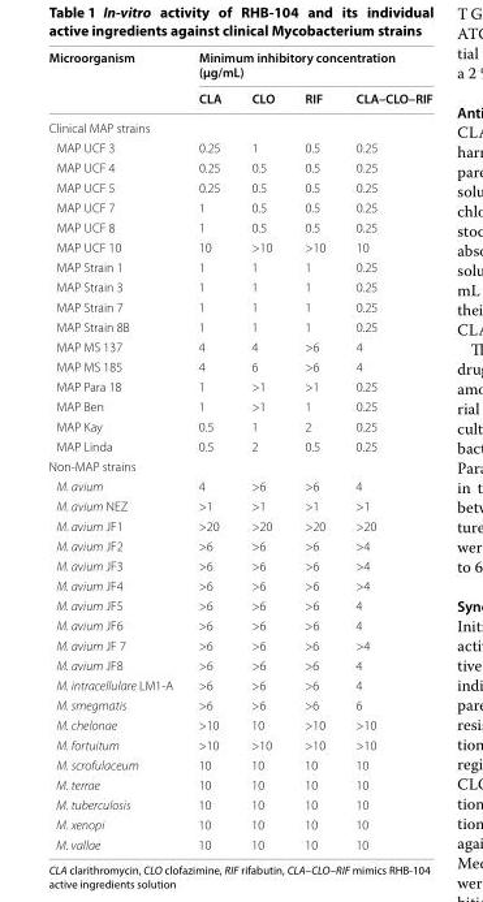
<table><thead><tr><td rowspan="2">Microorganism</td><td colspan="4">Minimum inhibitory concentration (μg/mL)</td></tr><tr><td>CLA</td><td>CLO</td><td>RIF</td><td>CLA–CLO–RIF</td></tr></thead><tbody><tr><td colspan="5">Clinical MAP strains</td></tr><tr><td>MAP UCF 3</td><td>0.25</td><td>1</td><td>0.5</td><td>0.25</td></tr><tr><td>MAP UCF 4</td><td>0.25</td><td>0.5</td><td>0.5</td><td>0.25</td></tr><tr><td>MAP UCF 5</td><td>0.25</td><td>0.5</td><td>0.5</td><td>0.25</td></tr><tr><td>MAP UCF 7</td><td>1</td><td>0.5</td><td>0.5</td><td>0.25</td></tr><tr><td>MAP UCF 8</td><td>1</td><td>0.5</td><td>0.5</td><td>0.25</td></tr><tr><td>MAP UCF 10</td><td>10</td><td>&gt;10</td><td>&gt;10</td><td>10</td></tr><tr><td>MAP Strain 1</td><td>1</td><td>1</td><td>1</td><td>0.25</td></tr><tr><td>MAP Strain 3</td><td>1</td><td>1</td><td>1</td><td>0.25</td></tr><tr><td>MAP Strain 7</td><td>1</td><td>1</td><td>1</td><td>0.25</td></tr><tr><td>MAP Strain 8B</td><td>1</td><td>1</td><td>1</td><td>0.25</td></tr><tr><td>MAP MS 137</td><td>4</td><td>4</td><td>&gt;6</td><td>4</td></tr><tr><td>MAP MS 185</td><td>4</td><td>6</td><td>&gt;6</td><td>4</td></tr><tr><td>MAP Para 18</td><td>1</td><td>&gt;1</td><td>&gt;1</td><td>0.25</td></tr><tr><td>MAP Ben</td><td>1</td><td>&gt;1</td><td>1</td><td>0.25</td></tr><tr><td>MAP Kay</td><td>0.5</td><td>1</td><td>2</td><td>0.25</td></tr><tr><td>MAP Linda</td><td>0.5</td><td>2</td><td>0.5</td><td>0.25</td></tr><tr><td colspan="5">Non-MAP strains</td></tr><tr><td>M. avium</td><td>4</td><td>&gt;6</td><td>&gt;6</td><td>4</td></tr><tr><td>M. avium NEZ</td><td>&gt;1</td><td>&gt;1</td><td>&gt;1</td><td>&gt;1</td></tr><tr><td>M. avium JF1</td><td>&gt;20</td><td>&gt;20</td><td>&gt;20</td><td>&gt;20</td></tr><tr><td>M. avium JF2</td><td>&gt;6</td><td>&gt;6</td><td>&gt;6</td><td>&gt;4</td></tr><tr><td>M. avium JF3</td><td>&gt;6</td><td>&gt;6</td><td>&gt;6</td><td>&gt;4</td></tr><tr><td>M. avium JF4</td><td>&gt;6</td><td>&gt;6</td><td>&gt;6</td><td>&gt;4</td></tr><tr><td>M. avium JF5</td><td>&gt;6</td><td>&gt;6</td><td>&gt;6</td><td>4</td></tr><tr><td>M. avium JF6</td><td>&gt;6</td><td>&gt;6</td><td>&gt;6</td><td>4</td></tr><tr><td>M. avium JF 7</td><td>&gt;6</td><td>&gt;6</td><td>&gt;6</td><td>&gt;4</td></tr><tr><td>M. avium JF8</td><td>&gt;6</td><td>&gt;6</td><td>&gt;6</td><td>4</td></tr><tr><td>M. intracellulare LM1-A</td><td>&gt;6</td><td>&gt;6</td><td>&gt;6</td><td>4</td></tr><tr><td>M. smegmatis</td><td>&gt;6</td><td>&gt;6</td><td>&gt;6</td><td>6</td></tr><tr><td>M. chelonae</td><td>&gt;10</td><td>10</td><td>&gt;10</td><td>&gt;10</td></tr><tr><td>M. fortuitum</td><td>&gt;10</td><td>&gt;10</td><td>&gt;10</td><td>&gt;10</td></tr><tr><td>M. scrofulaceum</td><td>10</td><td>10</td><td>10</td><td>10</td></tr><tr><td>M. terrae</td><td>10</td><td>10</td><td>10</td><td>10</td></tr><tr><td>M. tuberculosis</td><td>10</td><td>10</td><td>10</td><td>10</td></tr><tr><td>M. xenopi</td><td>10</td><td>10</td><td>10</td><td>10</td></tr><tr><td>M. vallae</td><td>10</td><td>10</td><td>10</td><td>10</td></tr></tbody></table>